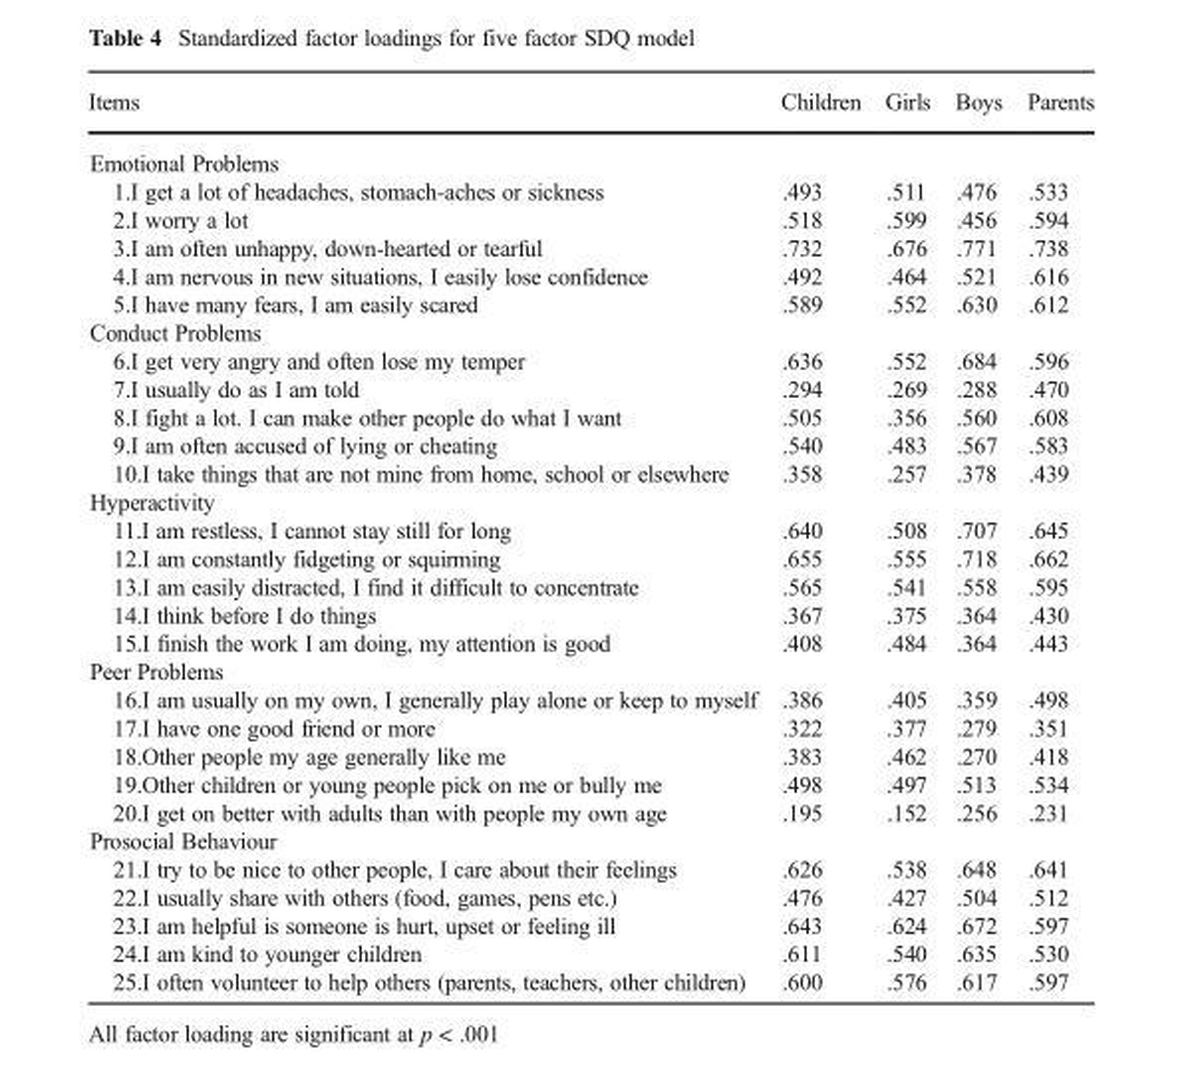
<table><thead><tr><td>Items</td><td>Children</td><td>Girls</td><td>Boys</td><td>Parents</td></tr></thead><tbody><tr><td colspan="5">Emotional Problems</td></tr><tr><td>1.I get a lot of headaches, stomach-aches or sickness</td><td>.493</td><td>.511</td><td>.476</td><td>.533</td></tr><tr><td>2.I worry a lot</td><td>.518</td><td>.599</td><td>.456</td><td>.594</td></tr><tr><td>3.I am often unhappy, down-hearted or tearful</td><td>.732</td><td>.676</td><td>.771</td><td>.738</td></tr><tr><td>4.I am nervous in new situations, I easily lose confidence</td><td>.492</td><td>.464</td><td>.521</td><td>.616</td></tr><tr><td>5.I have many fears, I am easily scared</td><td>.589</td><td>.552</td><td>.630</td><td>.612</td></tr><tr><td colspan="5">Conduct Problems</td></tr><tr><td>6.I get very angry and often lose my temper</td><td>.636</td><td>.552</td><td>.684</td><td>.596</td></tr><tr><td>7.I usually do as I am told</td><td>.294</td><td>.269</td><td>.288</td><td>.470</td></tr><tr><td>8.I fight a lot. I can make other people do what I want</td><td>.505</td><td>.356</td><td>.560</td><td>.608</td></tr><tr><td>9.I am often accused of lying or cheating</td><td>.540</td><td>.483</td><td>.567</td><td>.583</td></tr><tr><td>10.I take things that are not mine from home, school or elsewhere</td><td>.358</td><td>.257</td><td>.378</td><td>.439</td></tr><tr><td colspan="5">Hyperactivity</td></tr><tr><td>11.I am restless, I cannot stay still for long</td><td>.640</td><td>.508</td><td>.707</td><td>.645</td></tr><tr><td>12.I am constantly fidgeting or squirming</td><td>.655</td><td>.555</td><td>.718</td><td>.662</td></tr><tr><td>13.I am easily distracted, I find it difficult to concentrate</td><td>.565</td><td>.541</td><td>.558</td><td>.595</td></tr><tr><td>14.I think before I do things</td><td>.367</td><td>.375</td><td>.364</td><td>.430</td></tr><tr><td>15.I finish the work I am doing, my attention is good</td><td>.408</td><td>.484</td><td>.364</td><td>.443</td></tr><tr><td colspan="5">Peer Problems</td></tr><tr><td>16.I am usually on my own, I generally play alone or keep to myself</td><td>.386</td><td>.405</td><td>.359</td><td>.498</td></tr><tr><td>17.I have one good friend or more</td><td>.322</td><td>.377</td><td>.279</td><td>.351</td></tr><tr><td>18.Other people my age generally like me</td><td>.383</td><td>.462</td><td>.270</td><td>.418</td></tr><tr><td>19.Other children or young people pick on me or bully me</td><td>.498</td><td>.497</td><td>.513</td><td>.534</td></tr><tr><td>20.I get on better with adults than with people my own age</td><td>.195</td><td>.152</td><td>.256</td><td>.231</td></tr><tr><td colspan="5">Prosocial Behaviour</td></tr><tr><td>21.I try to be nice to other people, I care about their feelings</td><td>.626</td><td>.538</td><td>.648</td><td>.641</td></tr><tr><td>22.I usually share with others (food, games, pens etc.)</td><td>.476</td><td>.427</td><td>.504</td><td>.512</td></tr><tr><td>23.I am helpful is someone is hurt, upset or feeling ill</td><td>.643</td><td>.624</td><td>.672</td><td>.597</td></tr><tr><td>24.I am kind to younger children</td><td>.611</td><td>.540</td><td>.635</td><td>.530</td></tr><tr><td>25.I often volunteer to help others (parents, teachers, other children)</td><td>.600</td><td>.576</td><td>.617</td><td>.597</td></tr></tbody></table>